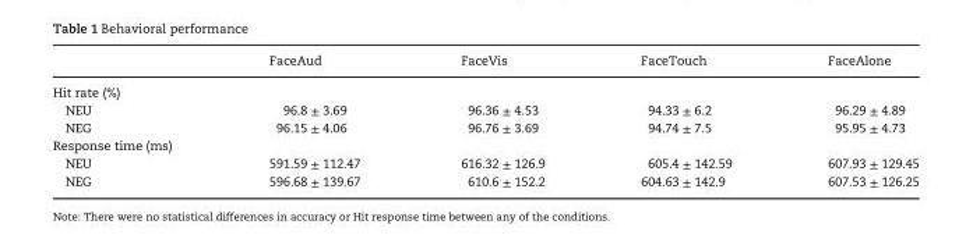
<table><thead><tr><td></td><td>FaceAud</td><td>FaceVis</td><td>FaceTouch</td><td>FaceAlone</td></tr></thead><tbody><tr><td colspan="5">Hit rate (%)</td></tr><tr><td>NEU</td><td>96.8 ± 3.69</td><td>96.36 ± 4.53</td><td>94.33 ± 6.2</td><td>96.29 ± 4.89</td></tr><tr><td>NEG</td><td>96.15 ± 4.06</td><td>96.76 ± 3.69</td><td>94.74 ± 7.5</td><td>95.95 ± 4.73</td></tr><tr><td colspan="5">Response time (ms)</td></tr><tr><td>NEU</td><td>591.59 ± 112.47</td><td>616.32 ± 126.9</td><td>605.4 ± 142.59</td><td>607.93 ± 129.45</td></tr><tr><td>NEG</td><td>596.68 ± 139.67</td><td>610.6 ± 152.2</td><td>604.63 ± 142.9</td><td>607.53 ± 126.25</td></tr></tbody></table>